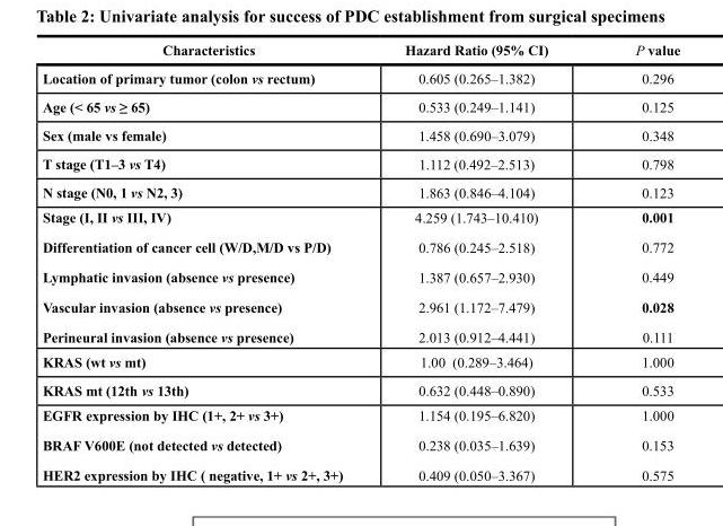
<table><thead><tr><td>Characteristics</td><td>Hazard Ratio (95% CI)</td><td>P value</td></tr></thead><tbody><tr><td>Location of primary tumor (colon vs rectum)</td><td>0.605 (0.265–1.382)</td><td>0.296</td></tr><tr><td>Age (&lt; 65 vs ≥ 65)</td><td>0.533 (0.249–1.141)</td><td>0.125</td></tr><tr><td>Sex (male vs female)</td><td>1.458 (0.690–3.079)</td><td>0.348</td></tr><tr><td>T stage (T1–3 vs T4)</td><td>1.112 (0.492–2.513)</td><td>0.798</td></tr><tr><td>N stage (N0, 1 vs N2, 3)</td><td>1.863 (0.846–4.104)</td><td>0.123</td></tr><tr><td>Stage (I, II vs III, IV)</td><td>4.259 (1.743–10.410)</td><td>0.001</td></tr><tr><td>Differentiation of cancer cell (W/D,M/D vs P/D)</td><td>0.786 (0.245–2.518)</td><td>0.772</td></tr><tr><td>Lymphatic invasion (absence vs presence)</td><td>1.387 (0.657–2.930)</td><td>0.449</td></tr><tr><td>Vascular invasion (absence vs presence)</td><td>2.961 (1.172–7.479)</td><td>0.028</td></tr><tr><td>Perineural invasion (absence vs presence)</td><td>2.013 (0.912–4.441)</td><td>0.111</td></tr><tr><td>KRAS (wt vs mt)</td><td>1.00 (0.289–3.464)</td><td>1.000</td></tr><tr><td>KRAS mt (12th vs 13th)</td><td>0.632 (0.448–0.890)</td><td>0.533</td></tr><tr><td>EGFR expression by IHC (1+, 2+ vs 3+) BRAF V600E (not detected vs detected) HER2 expression by IHC ( negative, 1+ vs 2+, 3+)</td><td>1.154 (0.195–6.820) 0.238 (0.035–1.639) 0.409 (0.050–3.367)</td><td>1.000 0.153 0.575</td></tr></tbody></table>